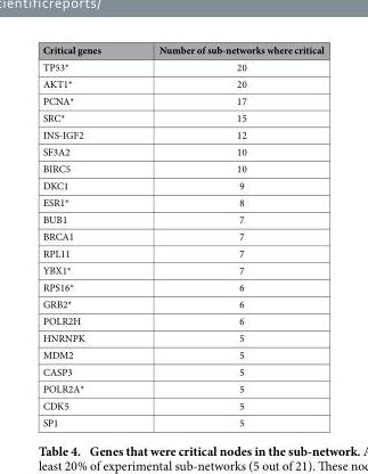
<table><thead><tr><td>Critical genes</td><td>Number of sub-networks where critical</td></tr></thead><tbody><tr><td>TP53*</td><td>20</td></tr><tr><td>AKT1*</td><td>20</td></tr><tr><td>PCNA*</td><td>17</td></tr><tr><td>SRC*</td><td>15</td></tr><tr><td>INS-IGF2</td><td>12</td></tr><tr><td>SF3A2</td><td>10</td></tr><tr><td>BIRC5</td><td>10</td></tr><tr><td>DKC1</td><td>9</td></tr><tr><td>ESR1*</td><td>8</td></tr><tr><td>BUB1</td><td>7</td></tr><tr><td>BRCA1</td><td>7</td></tr><tr><td>RPL11</td><td>7</td></tr><tr><td>YBX1*</td><td>7</td></tr><tr><td>RPS16*</td><td>6</td></tr><tr><td>GRB2*</td><td>6</td></tr><tr><td>POLR2H</td><td>6</td></tr><tr><td>HNRNPK</td><td>5</td></tr><tr><td>MDM2</td><td>5</td></tr><tr><td>CASP3</td><td>5</td></tr><tr><td>POLR2A*</td><td>5</td></tr><tr><td>CDK5</td><td>5</td></tr><tr><td>SP1</td><td>5</td></tr></tbody></table>